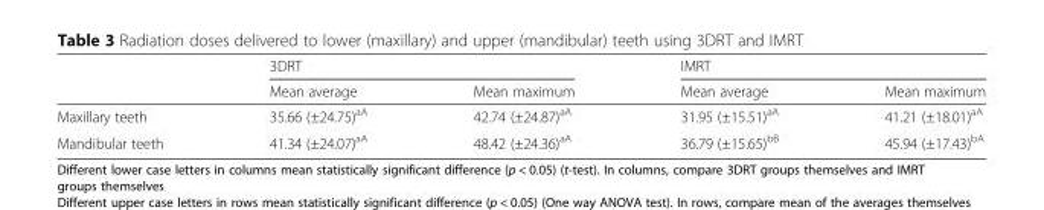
<table><thead><tr><td rowspan="2"></td><td colspan="2">3DRT</td><td colspan="2">IMRT</td></tr><tr><td>Mean average</td><td>Mean maximum</td><td>Mean average</td><td>Mean maximum</td></tr></thead><tbody><tr><td>Maxillary teeth</td><td>35.66 (±24.75)<sup>aA</sup></td><td>42.74 (±24.87)<sup>aA</sup></td><td>31.95 (±15.51)<sup>aA</sup></td><td>41.21 (±18.01)<sup>aA</sup></td></tr><tr><td>Mandibular teeth</td><td>41.34 (±24.07)<sup>aA</sup></td><td>48.42 (±24.36)<sup>aA</sup></td><td>36.79 (±15.65)<sup>bB</sup></td><td>45.94 (±17.43)<sup>bA</sup></td></tr></tbody></table>